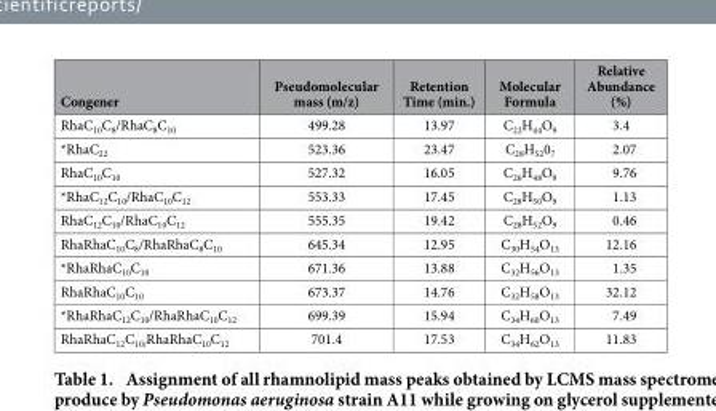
<table><thead><tr><td>Congener</td><td>Pseudomolecular mass (m/z)</td><td>Retention Time (min.)</td><td>Molecular Formula</td><td>Relative Abundance (%)</td></tr></thead><tbody><tr><td>RhaC<sub>10</sub>C<sub>8</sub>/RhaC<sub>8</sub>C<sub>10</sub></td><td>499.28</td><td>13.97</td><td>C<sub>22</sub>H<sub>44</sub>O<sub>9</sub></td><td>3.4</td></tr><tr><td>*RhaC<sub>22</sub></td><td>523.36</td><td>23.47</td><td>C<sub>28</sub>H<sub>52</sub>0<sub>7</sub></td><td>2.07</td></tr><tr><td>RhaC<sub>10</sub>C<sub>10</sub></td><td>527.32</td><td>16.05</td><td>C<sub>26</sub>H<sub>48</sub>O<sub>9</sub></td><td>9.76</td></tr><tr><td>*RhaC<sub>12</sub>C<sub>10</sub>/RhaC<sub>10</sub>C<sub>12</sub></td><td>553.33</td><td>17.45</td><td>C<sub>28</sub>H<sub>50</sub>O<sub>9</sub></td><td>1.13</td></tr><tr><td>RhaC<sub>12</sub>C<sub>10</sub>/RhaC<sub>10</sub>C<sub>12</sub></td><td>555.35</td><td>19.42</td><td>C<sub>28</sub>H<sub>52</sub>O<sub>9</sub></td><td>0.46</td></tr><tr><td>RhaRhaC<sub>10</sub>C<sub>8</sub>/RhaRhaC<sub>8</sub>C<sub>10</sub></td><td>645.34</td><td>12.95</td><td>C<sub>30</sub>H<sub>54</sub>O<sub>13</sub></td><td>12.16</td></tr><tr><td>*RhaRhaC<sub>10</sub>C<sub>10</sub></td><td>671.36</td><td>13.88</td><td>C<sub>32</sub>H<sub>56</sub>O<sub>13</sub></td><td>1.35</td></tr><tr><td>RhaRhaC<sub>10</sub>C<sub>10</sub></td><td>673.37</td><td>14.76</td><td>C<sub>32</sub>H<sub>58</sub>O<sub>13</sub></td><td>32.12</td></tr><tr><td>*RhaRhaC<sub>12</sub>C<sub>10</sub>/RhaRhaC<sub>10</sub>C<sub>12</sub></td><td>699.39</td><td>15.94</td><td>C<sub>34</sub>H<sub>60</sub>O<sub>13</sub></td><td>7.49</td></tr><tr><td>RhaRhaC<sub>12</sub>C<sub>10/</sub>RhaRhaC<sub>10</sub>C<sub>12</sub></td><td>701.4</td><td>17.53</td><td>C<sub>34</sub>H<sub>62</sub>O<sub>13</sub></td><td>11.83</td></tr></tbody></table>